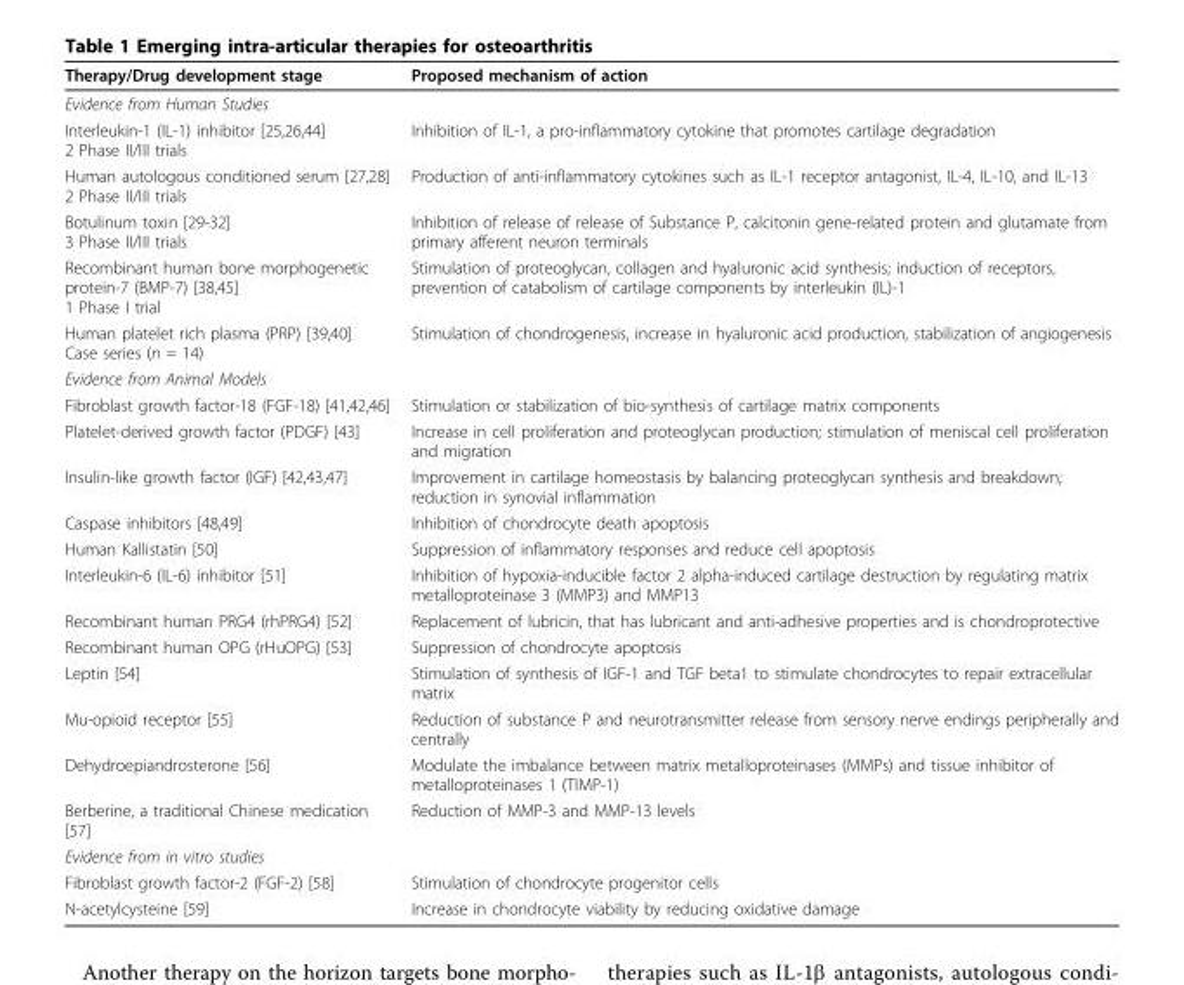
<table><thead><tr><td>Therapy/Drug development stage</td><td>Proposed mechanism of action</td></tr></thead><tbody><tr><td colspan="2">Evidence from Human Studies</td></tr><tr><td>Interleukin-1 (IL-1) inhibitor [25,26,44] 2 Phase II/III trials</td><td>Inhibition of IL-1, a pro-inflammatory cytokine that promotes cartilage degradation</td></tr><tr><td>Human autologous conditioned serum [27,28] 2 Phase II/III trials</td><td>Production of anti-inflammatory cytokines such as IL-1 receptor antagonist, IL-4, IL-10, and IL-13</td></tr><tr><td>Botulinum toxin [29-32] 3 Phase II/III trials</td><td>Inhibition of release of release of Substance P, calcitonin gene-related protein and glutamate from primary afferent neuron terminals</td></tr><tr><td>Recombinant human bone morphogenetic protein-7 (BMP-7) [38,45] 1 Phase I trial</td><td>Stimulation of proteoglycan, collagen and hyaluronic acid synthesis; induction of receptors, prevention of catabolism of cartilage components by interleukin (IL)-1</td></tr><tr><td>Human platelet rich plasma (PRP) [39,40] Case series (n = 14)</td><td>Stimulation of chondrogenesis, increase in hyaluronic acid production, stabilization of angiogenesis</td></tr><tr><td colspan="2">Evidence from Animal Models</td></tr><tr><td>Fibroblast growth factor-18 (FGF-18) [41,42,46]</td><td>Stimulation or stabilization of bio-synthesis of cartilage matrix components</td></tr><tr><td>Platelet-derived growth factor (PDGF) [43]</td><td>Increase in cell proliferation and proteoglycan production; stimulation of meniscal cell proliferation and migration</td></tr><tr><td>Insulin-like growth factor (IGF) [42,43,47]</td><td>Improvement in cartilage homeostasis by balancing proteoglycan synthesis and breakdown; reduction in synovial inflammation</td></tr><tr><td>Caspase inhibitors [48,49]</td><td>Inhibition of chondrocyte death apoptosis</td></tr><tr><td>Human Kallistatin [50]</td><td>Suppression of inflammatory responses and reduce cell apoptosis</td></tr><tr><td>Interleukin-6 (IL-6) inhibitor [51]</td><td>Inhibition of hypoxia-inducible factor 2 alpha-induced cartilage destruction by regulating matrix metalloproteinase 3 (MMP3) and MMP13</td></tr><tr><td>Recombinant human PRG4 (rhPRG4) [52]</td><td>Replacement of lubricin, that has lubricant and anti-adhesive properties and is chondroprotective</td></tr><tr><td>Recombinant human OPG (rHuOPG) [53]</td><td>Suppression of chondrocyte apoptosis</td></tr><tr><td>Leptin [54]</td><td>Stimulation of synthesis of IGF-1 and TGF beta1 to stimulate chondrocytes to repair extracellular matrix</td></tr><tr><td>Mu-opioid receptor [55]</td><td>Reduction of substance P and neurotransmitter release from sensory nerve endings peripherally and centrally</td></tr><tr><td>Dehydroepiandrosterone [56]</td><td>Modulate the imbalance between matrix metalloproteinases (MMPs) and tissue inhibitor of metalloproteinases 1 (TIMP-1)</td></tr><tr><td>Berberine, a traditional Chinese medication [57]</td><td>Reduction of MMP-3 and MMP-13 levels</td></tr><tr><td colspan="2">Evidence from in vitro studies</td></tr><tr><td>Fibroblast growth factor-2 (FGF-2) [58]</td><td>Stimulation of chondrocyte progenitor cells</td></tr><tr><td>N-acetylcysteine [59]</td><td>Increase in chondrocyte viability by reducing oxidative damage</td></tr></tbody></table>